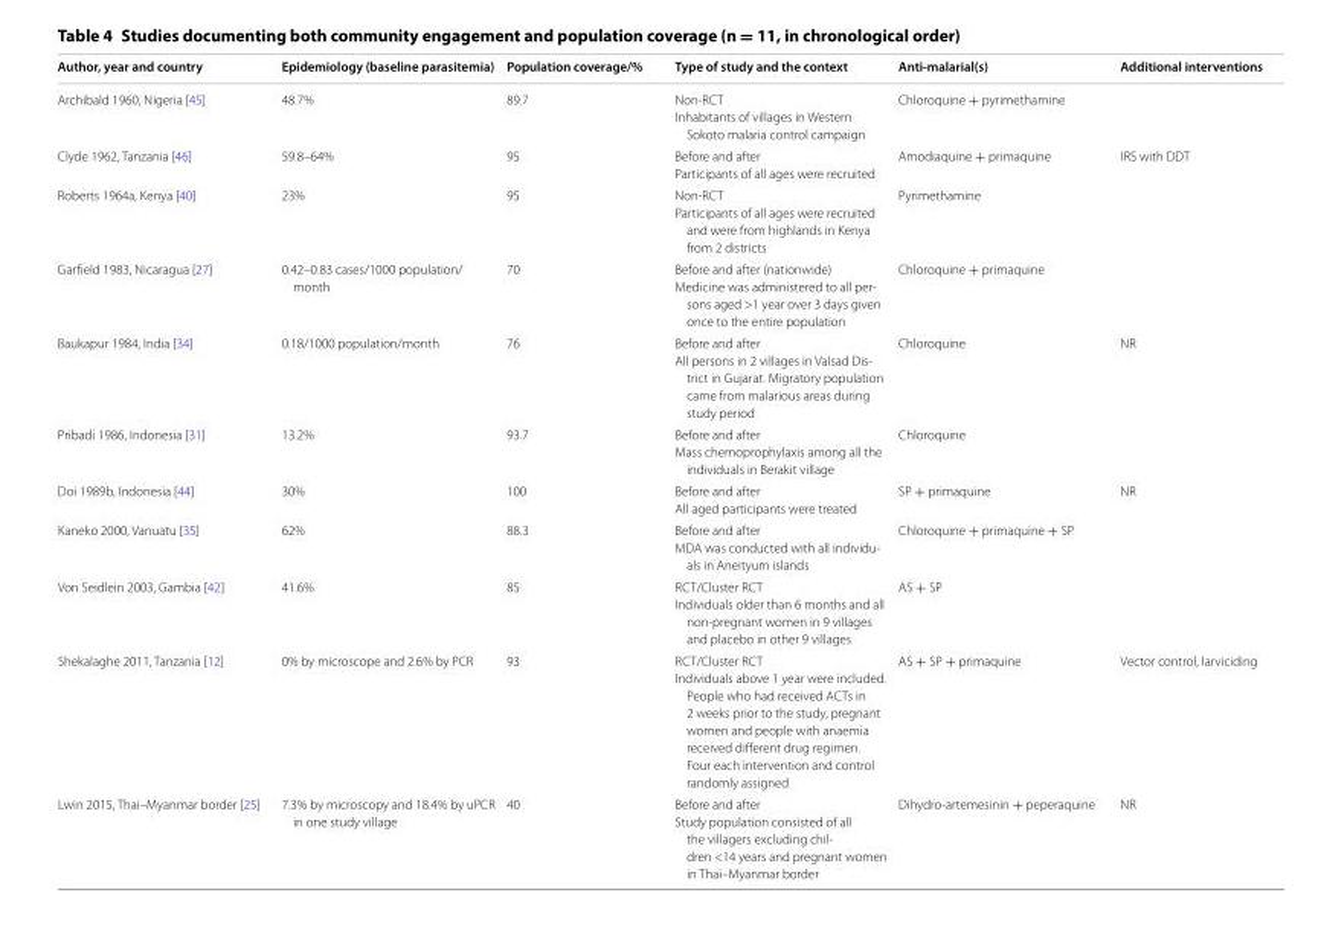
<table><thead><tr><td>Author, year and country</td><td>Epidemiology (baseline parasitemia)</td><td>Population coverage/%</td><td>Type of study and the context</td><td>Anti-malarial(s)</td><td>Additional interventions</td></tr></thead><tbody><tr><td>Archibald 1960, Nigeria [45]</td><td>48.7%</td><td>89.7</td><td>Non-RCT Inhabitants of villages in Western Sokoto malaria control campaign</td><td>Chloroquine + pyrimethamine</td><td></td></tr><tr><td>Clyde 1962, Tanzania [46]</td><td>59.8–64%</td><td>95</td><td>Before and after Participants of all ages were recruited</td><td>Amodiaquine + primaquine</td><td>IRS with DDT</td></tr><tr><td>Roberts 1964a, Kenya [40]</td><td>23%</td><td>95</td><td>Non-RCT Participants of all ages were recruited and were from highlands in Kenya from 2 districts</td><td>Pyrimethamine</td><td></td></tr><tr><td>Garfield 1983, Nicaragua [27]</td><td>0.42–0.83 cases/1000 population/ month</td><td>70</td><td>Before and after (nationwide) Medicine was administered to all per- sons aged &gt;1 year over 3 days given once to the entire population</td><td>Chloroquine + primaquine</td><td></td></tr><tr><td>Baukapur 1984, India [34]</td><td>0.18/1000 population/month</td><td>76</td><td>Before and after All persons in 2 villages in Valsad Dis- trict in Gujarat. Migratory population came from malarious areas during study period</td><td>Chloroquine</td><td>NR</td></tr><tr><td>Pribadi 1986, Indonesia [31]</td><td>13.2%</td><td>93.7</td><td>Before and after Mass chemoprophylaxis among all the individuals in Berakit village</td><td>Chloroquine</td><td></td></tr><tr><td>Doi 1989b, Indonesia [44]</td><td>30%</td><td>100</td><td>Before and after All aged participants were treated</td><td>SP + primaquine</td><td>NR</td></tr><tr><td>Kaneko 2000, Vanuatu [35]</td><td>62%</td><td>88.3</td><td>Before and after MDA was conducted with all individu- als in Aneityum islands</td><td>Chloroquine + primaquine + SP</td><td></td></tr><tr><td>Von Seidlein 2003, Gambia [42]</td><td>41.6%</td><td>85</td><td>RCT/Cluster RCT Individuals older than 6 months and all non-pregnant women in 9 villages and placebo in other 9 villages</td><td>AS + SP</td><td></td></tr><tr><td>Shekalaghe 2011, Tanzania [12]</td><td>0% by microscope and 2.6% by PCR</td><td>93</td><td>RCT/Cluster RCT Individuals above 1 year were included. People who had received ACTs in 2 weeks prior to the study, pregnant women and people with anaemia received different drug regimen. Four each intervention and control randomly assigned</td><td>AS + SP + primaquine</td><td>Vector control, larviciding</td></tr><tr><td>Lwin 2015, Thai–Myanmar border [25]</td><td>7.3% by microscopy and 18.4% by uPCR in one study village</td><td>40</td><td>Before and after Study population consisted of all the villagers excluding chil- dren &lt;14 years and pregnant women in Thai–Myanmar border</td><td>Dihydro-artemesinin + peperaquine</td><td>NR</td></tr></tbody></table>